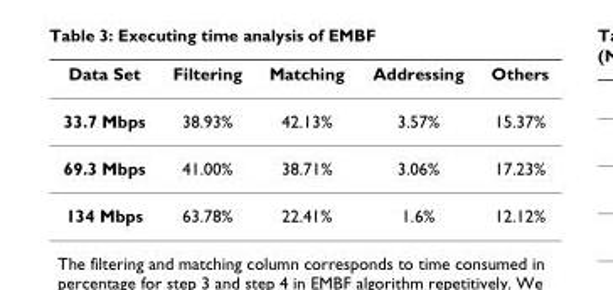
<table><thead><tr><td>Data Set</td><td>Filtering</td><td>Matching</td><td>Addressing</td><td>Others</td></tr></thead><tbody><tr><td>33.7 Mbps</td><td>38.93%</td><td>42.13%</td><td>3.57%</td><td>15.37%</td></tr><tr><td>69.3 Mbps</td><td>41.00%</td><td>38.71%</td><td>3.06%</td><td>17.23%</td></tr><tr><td>134 Mbps</td><td>63.78%</td><td>22.41%</td><td>1.6%</td><td>12.12%</td></tr></tbody></table>